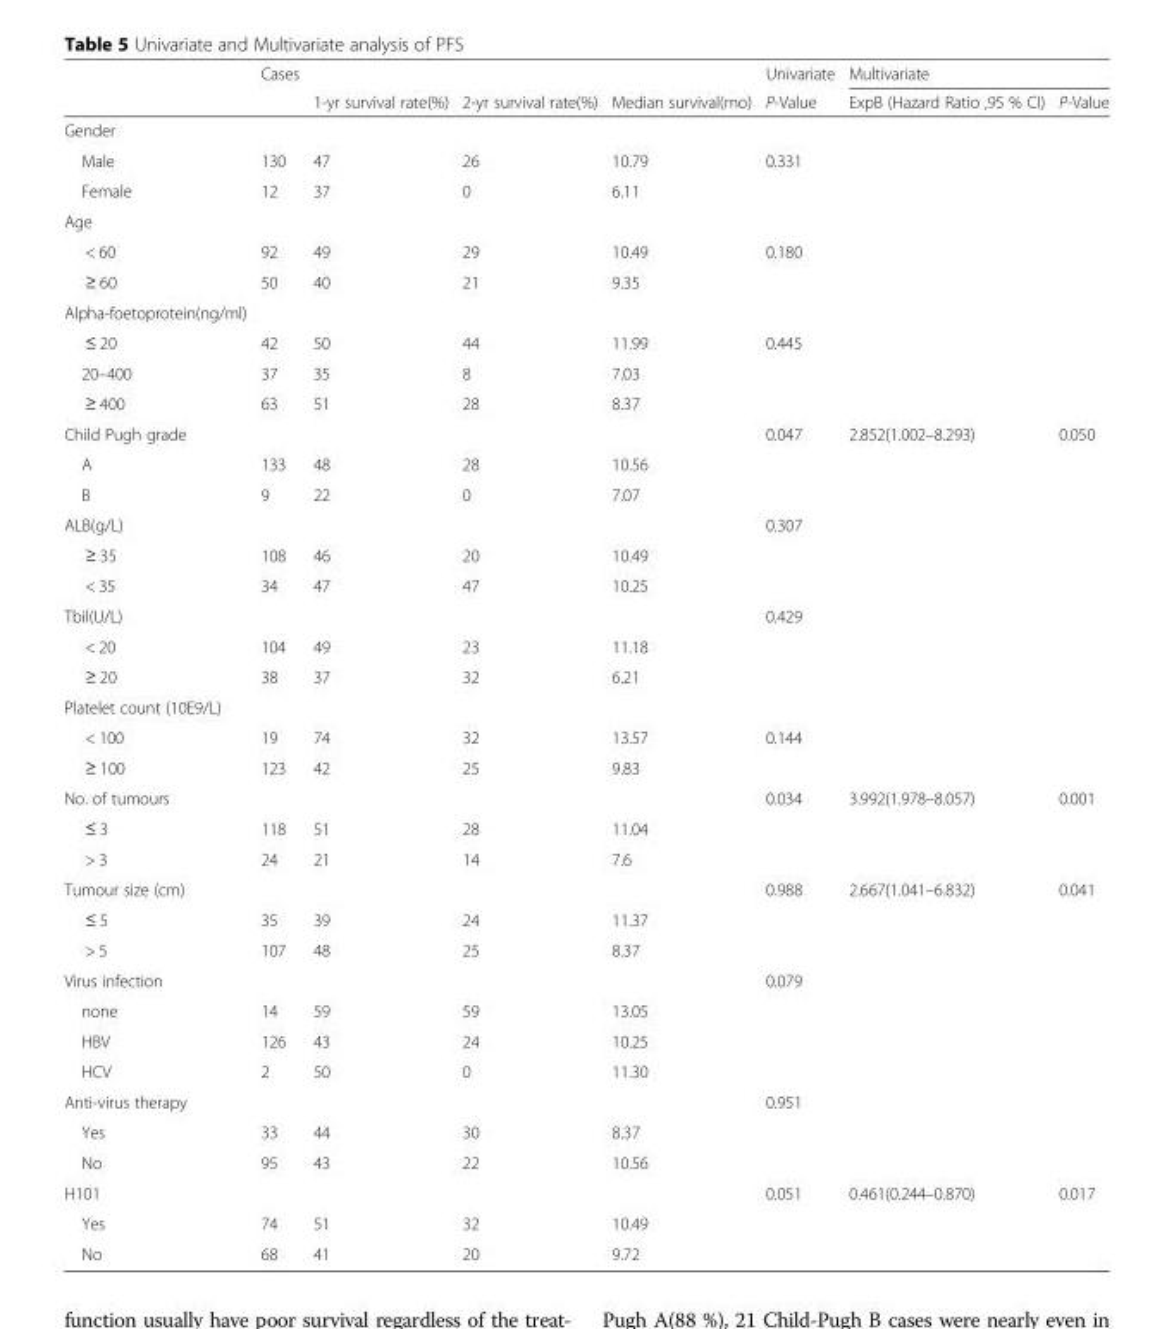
<table><thead><tr><td rowspan="2"></td><td rowspan="2">Cases</td><td rowspan="2">1-yr survival rate(%)</td><td rowspan="2">2-yr survival rate(%)</td><td rowspan="2">Median survival(mo)</td><td rowspan="2">Univariate P-Value</td><td colspan="2">Multivariate</td></tr><tr><td>ExpB (Hazard Ratio ,95 % CI)</td><td>P-Value</td></tr></thead><tbody><tr><td colspan="8">Gender</td></tr><tr><td>Male</td><td>130</td><td>47</td><td>26</td><td>10.79</td><td>0.331</td><td></td><td></td></tr><tr><td>Female</td><td>12</td><td>37</td><td>0</td><td>6.11</td><td></td><td></td><td></td></tr><tr><td colspan="8">Age</td></tr><tr><td>&lt; 60</td><td>92</td><td>49</td><td>29</td><td>10.49</td><td>0.180</td><td></td><td></td></tr><tr><td>≥ 60</td><td>50</td><td>40</td><td>21</td><td>9.35</td><td></td><td></td><td></td></tr><tr><td colspan="8">Alpha-foetoprotein(ng/ml)</td></tr><tr><td>≤ 20</td><td>42</td><td>50</td><td>44</td><td>11.99</td><td>0.445</td><td></td><td></td></tr><tr><td>20–400</td><td>37</td><td>35</td><td>8</td><td>7.03</td><td></td><td></td><td></td></tr><tr><td>≥ 400</td><td>63</td><td>51</td><td>28</td><td>8.37</td><td></td><td></td><td></td></tr><tr><td>Child Pugh grade</td><td></td><td></td><td></td><td></td><td>0.047</td><td>2.852(1.002–8.293)</td><td>0.050</td></tr><tr><td>A</td><td>133</td><td>48</td><td>28</td><td>10.56</td><td></td><td></td><td></td></tr><tr><td>B</td><td>9</td><td>22</td><td>0</td><td>7.07</td><td></td><td></td><td></td></tr><tr><td>ALB(g/L)</td><td></td><td></td><td></td><td></td><td>0.307</td><td></td><td></td></tr><tr><td>≥ 35</td><td>108</td><td>46</td><td>20</td><td>10.49</td><td></td><td></td><td></td></tr><tr><td>&lt; 35</td><td>34</td><td>47</td><td>47</td><td>10.25</td><td></td><td></td><td></td></tr><tr><td>Tbil(U/L)</td><td></td><td></td><td></td><td></td><td>0.429</td><td></td><td></td></tr><tr><td>&lt; 20</td><td>104</td><td>49</td><td>23</td><td>11.18</td><td></td><td></td><td></td></tr><tr><td>≥ 20</td><td>38</td><td>37</td><td>32</td><td>6.21</td><td></td><td></td><td></td></tr><tr><td colspan="8">Platelet count (10E9/L)</td></tr><tr><td>&lt; 100</td><td>19</td><td>74</td><td>32</td><td>13.57</td><td>0.144</td><td></td><td></td></tr><tr><td>≥ 100</td><td>123</td><td>42</td><td>25</td><td>9.83</td><td></td><td></td><td></td></tr><tr><td>No. of tumours</td><td></td><td></td><td></td><td></td><td>0.034</td><td>3.992(1.978–8.057)</td><td>0.001</td></tr><tr><td>≤ 3</td><td>118</td><td>51</td><td>28</td><td>11.04</td><td></td><td></td><td></td></tr><tr><td>&gt; 3</td><td>24</td><td>21</td><td>14</td><td>7.6</td><td></td><td></td><td></td></tr><tr><td>Tumour size (cm)</td><td></td><td></td><td></td><td></td><td>0.988</td><td>2.667(1.041–6.832)</td><td>0.041</td></tr><tr><td>≤ 5</td><td>35</td><td>39</td><td>24</td><td>11.37</td><td></td><td></td><td></td></tr><tr><td>&gt; 5</td><td>107</td><td>48</td><td>25</td><td>8.37</td><td></td><td></td><td></td></tr><tr><td>Virus infection</td><td></td><td></td><td></td><td></td><td>0.079</td><td></td><td></td></tr><tr><td>none</td><td>14</td><td>59</td><td>59</td><td>13.05</td><td></td><td></td><td></td></tr><tr><td>HBV</td><td>126</td><td>43</td><td>24</td><td>10.25</td><td></td><td></td><td></td></tr><tr><td>HCV</td><td>2</td><td>50</td><td>0</td><td>11.30</td><td></td><td></td><td></td></tr><tr><td>Anti-virus therapy</td><td></td><td></td><td></td><td></td><td>0.951</td><td></td><td></td></tr><tr><td>Yes</td><td>33</td><td>44</td><td>30</td><td>8.37</td><td></td><td></td><td></td></tr><tr><td>No</td><td>95</td><td>43</td><td>22</td><td>10.56</td><td></td><td></td><td></td></tr><tr><td>H101</td><td></td><td></td><td></td><td></td><td>0.051</td><td>0.461(0.244–0.870)</td><td>0.017</td></tr><tr><td>Yes</td><td>74</td><td>51</td><td>32</td><td>10.49</td><td></td><td></td><td></td></tr><tr><td>No</td><td>68</td><td>41</td><td>20</td><td>9.72</td><td></td><td></td><td></td></tr></tbody></table>